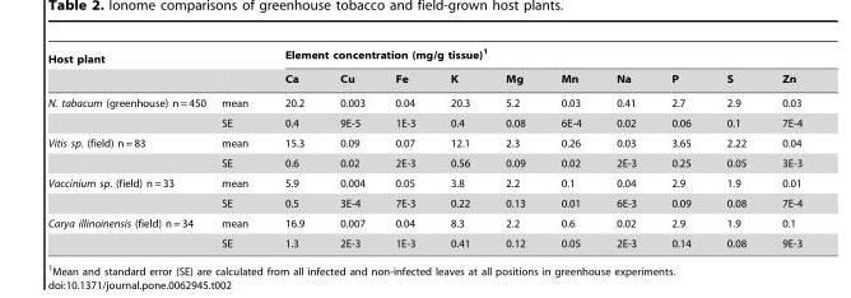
<table><thead><tr><td rowspan="2">Host plant</td><td rowspan="2"></td><td colspan="10">Element concentration (mg/g tissue)<sup>1</sup></td></tr><tr><td>Ca</td><td>Cu</td><td>Fe</td><td>K</td><td>Mg</td><td>Mn</td><td>Na</td><td>P</td><td>S</td><td>Zn</td></tr></thead><tbody><tr><td rowspan="2">N. tabacum (greenhouse) n = 450</td><td>mean</td><td>20.2</td><td>0.003</td><td>0.04</td><td>20.3</td><td>5.2</td><td>0.03</td><td>0.41</td><td>2.7</td><td>2.9</td><td>0.03</td></tr><tr><td>SE</td><td>0.4</td><td>9E-5</td><td>1E-3</td><td>0.4</td><td>0.08</td><td>6E-4</td><td>0.02</td><td>0.06</td><td>0.1</td><td>7E-4</td></tr><tr><td rowspan="2">Vitis sp. (field) n = 83</td><td>mean</td><td>15.3</td><td>0.09</td><td>0.07</td><td>12.1</td><td>2.3</td><td>0.26</td><td>0.03</td><td>3.65</td><td>2.22</td><td>0.04</td></tr><tr><td>SE</td><td>0.6</td><td>0.02</td><td>2E-3</td><td>0.56</td><td>0.09</td><td>0.02</td><td>2E-3</td><td>0.25</td><td>0.05</td><td>3E-3</td></tr><tr><td rowspan="2">Vaccinium sp. (field) n = 33</td><td>mean</td><td>5.9</td><td>0.004</td><td>0.05</td><td>3.8</td><td>2.2</td><td>0.1</td><td>0.04</td><td>2.9</td><td>1.9</td><td>0.01</td></tr><tr><td>SE</td><td>0.5</td><td>3E-4</td><td>7E-3</td><td>0.22</td><td>0.13</td><td>0.01</td><td>6E-3</td><td>0.09</td><td>0.08</td><td>7E-4</td></tr><tr><td rowspan="2">Carya illinoinensis (field) n = 34</td><td>mean</td><td>16.9</td><td>0.007</td><td>0.04</td><td>8.3</td><td>2.2</td><td>0.6</td><td>0.02</td><td>2.9</td><td>1.9</td><td>0.1</td></tr><tr><td>SE</td><td>1.3</td><td>2E-3</td><td>1E-3</td><td>0.41</td><td>0.12</td><td>0.05</td><td>2E-3</td><td>0.14</td><td>0.08</td><td>9E-3</td></tr></tbody></table>